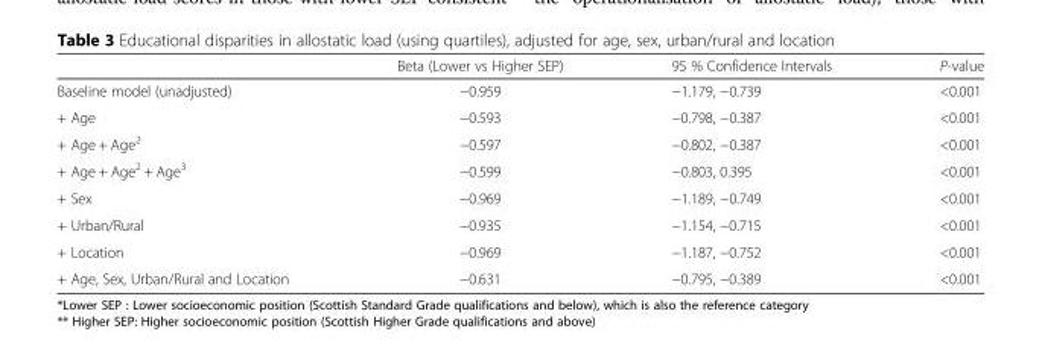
<table><thead><tr><td></td><td>Beta (Lower vs Higher SEP)</td><td>95 % Confidence Intervals</td><td>P-value</td></tr></thead><tbody><tr><td>Baseline model (unadjusted)</td><td>−0.959</td><td>−1.179, −0.739</td><td>&lt;0.001</td></tr><tr><td>+ Age</td><td>−0.593</td><td>−0.798, −0.387</td><td>&lt;0.001</td></tr><tr><td>+ Age + Age<sup>2</sup></td><td>−0.597</td><td>−0.802, −0.387</td><td>&lt;0.001</td></tr><tr><td>+ Age + Age<sup>2</sup> + Age<sup>3</sup></td><td>−0.599</td><td>−0.803, 0.395</td><td>&lt;0.001</td></tr><tr><td>+ Sex</td><td>−0.969</td><td>−1.189, −0.749</td><td>&lt;0.001</td></tr><tr><td>+ Urban/Rural</td><td>−0.935</td><td>−1.154, −0.715</td><td>&lt;0.001</td></tr><tr><td>+ Location</td><td>−0.969</td><td>−1.187, −0.752</td><td>&lt;0.001</td></tr><tr><td>+ Age, Sex, Urban/Rural and Location</td><td>−0.631</td><td>−0.795, −0.389</td><td>&lt;0.001</td></tr></tbody></table>